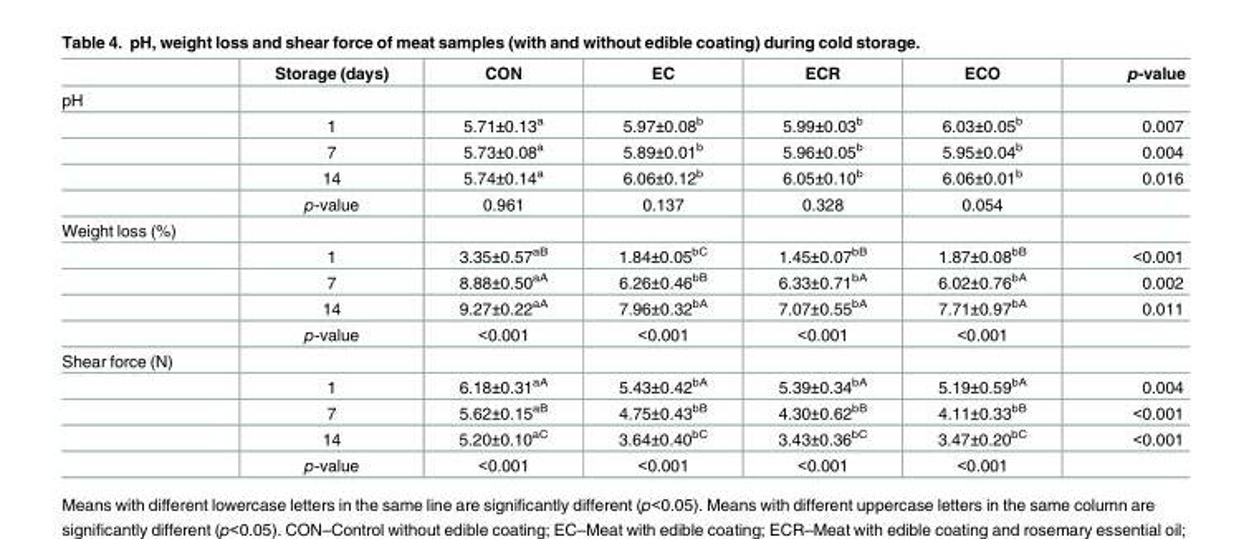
<table><thead><tr><td></td><td>Storage (days)</td><td>CON</td><td>EC</td><td>ECR</td><td>ECO</td><td>p-value</td></tr></thead><tbody><tr><td colspan="7">pH</td></tr><tr><td></td><td>1</td><td>5.71±0.13<sup>a</sup></td><td>5.97±0.08<sup>b</sup></td><td>5.99±0.03<sup>b</sup></td><td>6.03±0.05<sup>b</sup></td><td>0.007</td></tr><tr><td></td><td>7</td><td>5.73±0.08<sup>a</sup></td><td>5.89±0.01<sup>b</sup></td><td>5.96±0.05<sup>b</sup></td><td>5.95±0.04<sup>b</sup></td><td>0.004</td></tr><tr><td></td><td>14</td><td>5.74±0.14<sup>a</sup></td><td>6.06±0.12<sup>b</sup></td><td>6.05±0.10<sup>b</sup></td><td>6.06±0.01<sup>b</sup></td><td>0.016</td></tr><tr><td></td><td>p-value</td><td>0.961</td><td>0.137</td><td>0.328</td><td>0.054</td><td></td></tr><tr><td colspan="7">Weight loss (%)</td></tr><tr><td></td><td>1</td><td>3.35±0.57<sup>aB</sup></td><td>1.84±0.05<sup>bC</sup></td><td>1.45±0.07<sup>bB</sup></td><td>1.87±0.08<sup>bB</sup></td><td>&lt;0.001</td></tr><tr><td></td><td>7</td><td>8.88±0.50<sup>aA</sup></td><td>6.26±0.46<sup>bB</sup></td><td>6.33±0.71<sup>bA</sup></td><td>6.02±0.76<sup>bA</sup></td><td>0.002</td></tr><tr><td></td><td>14</td><td>9.27±0.22<sup>aA</sup></td><td>7.96±0.32<sup>bA</sup></td><td>7.07±0.55<sup>bA</sup></td><td>7.71±0.97<sup>bA</sup></td><td>0.011</td></tr><tr><td></td><td>p-value</td><td>&lt;0.001</td><td>&lt;0.001</td><td>&lt;0.001</td><td>&lt;0.001</td><td></td></tr><tr><td colspan="7">Shear force (N)</td></tr><tr><td></td><td>1</td><td>6.18±0.31<sup>aA</sup></td><td>5.43±0.42<sup>bA</sup></td><td>5.39±0.34<sup>bA</sup></td><td>5.19±0.59<sup>bA</sup></td><td>0.004</td></tr><tr><td></td><td>7</td><td>5.62±0.15<sup>aB</sup></td><td>4.75±0.43<sup>bB</sup></td><td>4.30±0.62<sup>bB</sup></td><td>4.11±0.33<sup>bB</sup></td><td>&lt;0.001</td></tr><tr><td></td><td>14</td><td>5.20±0.10<sup>aC</sup></td><td>3.64±0.40<sup>bC</sup></td><td>3.43±0.36<sup>bC</sup></td><td>3.47±0.20<sup>bC</sup></td><td>&lt;0.001</td></tr><tr><td></td><td>p-value</td><td>&lt;0.001</td><td>&lt;0.001</td><td>&lt;0.001</td><td>&lt;0.001</td><td></td></tr></tbody></table>